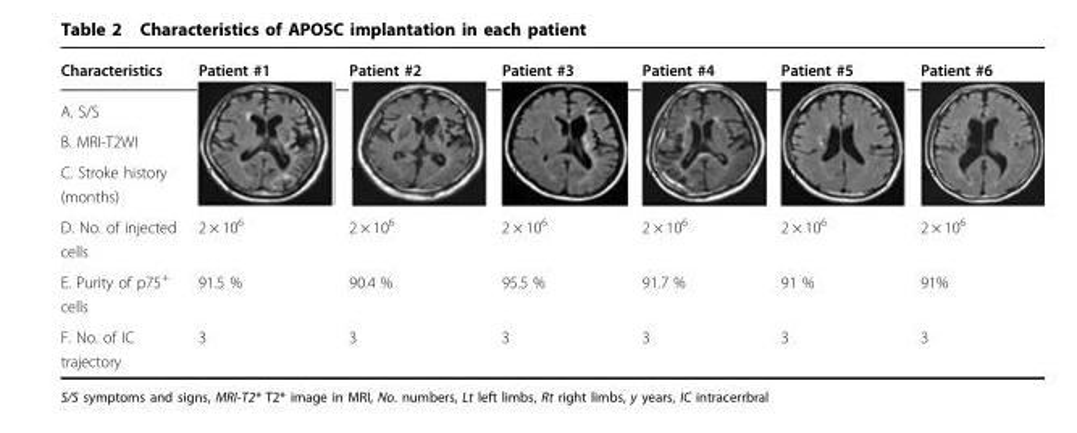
<table><thead><tr><td>Characteristics</td><td>Patient #1</td><td>Patient #2</td><td>Patient #3</td><td>Patient #4</td><td>Patient #5</td><td>Patient #6</td></tr></thead><tbody><tr><td>A. S/S</td><td>Rt hemiparesis</td><td>Rt hemiparesis</td><td>Rt hemiparesis</td><td>Lt hemiparesis</td><td>Lt hemiparesis</td><td>Lt hemiparesis</td></tr><tr><td colspan="7">B. MRI-T2WI</td></tr><tr><td>C. Stroke history (months)</td><td>51</td><td>11</td><td>12</td><td>16</td><td>20</td><td>29</td></tr><tr><td>D. No. of injected cells</td><td>2 × 10<sup>6</sup></td><td>2 × 10<sup>6</sup></td><td>2 × 10<sup>6</sup></td><td>2 × 10<sup>6</sup></td><td>2 × 10<sup>6</sup></td><td>2 × 10<sup>6</sup></td></tr><tr><td>E. Purity of p75<sup>+</sup> cells</td><td>91.5 %</td><td>90.4 %</td><td>95.5 %</td><td>91.7 %</td><td>91 %</td><td>91%</td></tr><tr><td>F. No. of IC trajectory</td><td>3</td><td>3</td><td>3</td><td>3</td><td>3</td><td>3</td></tr></tbody></table>